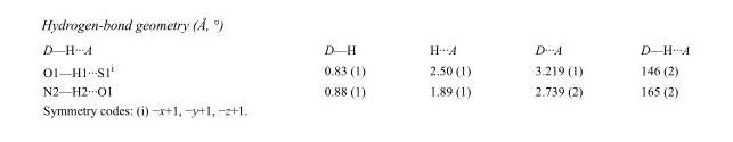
<table><tbody><tr><td>D—H···A</td><td>D—H</td><td>H···A</td><td>D···A</td><td>D—H···A</td></tr><tr><td>O1—H1···S1<sup>i</sup></td><td>0.83 (1)</td><td>2.50 (1)</td><td>3.219 (1)</td><td>146 (2)</td></tr><tr><td>N2—H2···O1</td><td>0.88 (1)</td><td>1.89 (1)</td><td>2.739 (2)</td><td>165 (2)</td></tr></tbody></table>